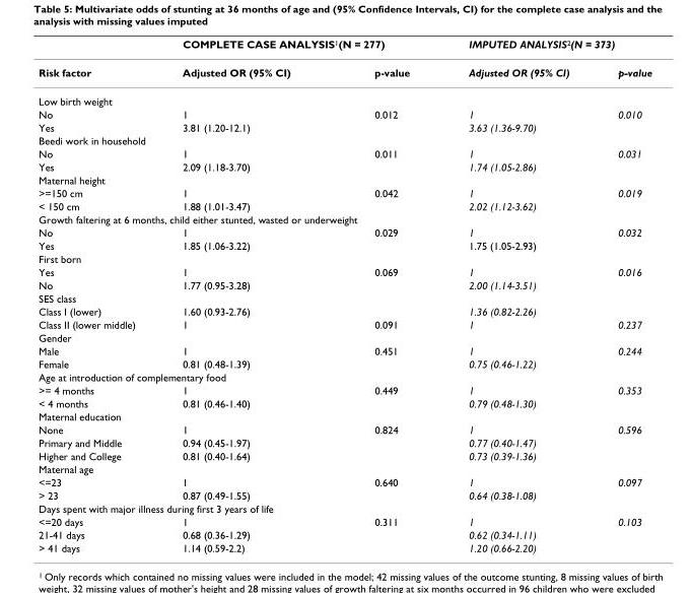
<table><thead><tr><td rowspan="2">Risk factor</td><td colspan="2">COMPLETE CASE ANALYSIS<sup>1</sup>(N = 277)</td><td colspan="2">IMPUTED ANALYSIS<sup>2</sup>(N = 373)</td></tr><tr><td>Adjusted OR (95% CI)</td><td>p-value</td><td>Adjusted OR (95% CI)</td><td>p-value</td></tr></thead><tbody><tr><td colspan="5">Low birth weight</td></tr><tr><td>No</td><td>1</td><td>0.012</td><td>1</td><td>0.010</td></tr><tr><td>Yes</td><td>3.81 (1.20-12.1)</td><td></td><td>3.63 (1.36-9.70)</td><td></td></tr><tr><td colspan="5">Beedi work in household</td></tr><tr><td>No</td><td>1</td><td>0.011</td><td>1</td><td>0.031</td></tr><tr><td>Yes</td><td>2.09 (1.18-3.70)</td><td></td><td>1.74 (1.05-2.86)</td><td></td></tr><tr><td colspan="5">Maternal height</td></tr><tr><td>&gt;=150 cm</td><td>1</td><td>0.042</td><td>1</td><td>0.019</td></tr><tr><td>&lt; 150 cm</td><td>1.88 (1.01-3.47)</td><td></td><td>2.02 (1.12-3.62)</td><td></td></tr><tr><td colspan="5">Growth faltering at 6 months, child either stunted, wasted or underweight</td></tr><tr><td>No</td><td>1</td><td>0.029</td><td>1</td><td>0.032</td></tr><tr><td>Yes</td><td>1.85 (1.06-3.22)</td><td></td><td>1.75 (1.05-2.93)</td><td></td></tr><tr><td colspan="5">First born</td></tr><tr><td>Yes</td><td>1</td><td>0.069</td><td>1</td><td>0.016</td></tr><tr><td>No</td><td>1.77 (0.95-3.28)</td><td></td><td>2.00 (1.14-3.51)</td><td></td></tr><tr><td colspan="5">SES class</td></tr><tr><td>Class I (lower)</td><td>1.60 (0.93-2.76)</td><td></td><td>1.36 (0.82-2.26)</td><td></td></tr><tr><td>Class II (lower middle)</td><td>1</td><td>0.091</td><td>1</td><td>0.237</td></tr><tr><td colspan="5">Gender</td></tr><tr><td>Male</td><td>1</td><td>0.451</td><td>1</td><td>0.244</td></tr><tr><td>Female</td><td>0.81 (0.48-1.39)</td><td></td><td>0.75 (0.46-1.22)</td><td></td></tr><tr><td colspan="5">Age at introduction of complementary food</td></tr><tr><td>&gt;= 4 months</td><td>1</td><td>0.449</td><td>1</td><td>0.353</td></tr><tr><td>&lt; 4 months</td><td>0.81 (0.46-1.40)</td><td></td><td>0.79 (0.48-1.30)</td><td></td></tr><tr><td colspan="5">Maternal education</td></tr><tr><td>None</td><td>1</td><td>0.824</td><td>1</td><td>0.596</td></tr><tr><td>Primary and Middle</td><td>0.94 (0.45-1.97)</td><td></td><td>0.77 (0.40-1.47)</td><td></td></tr><tr><td>Higher and College</td><td>0.81 (0.40-1.64)</td><td></td><td>0.73 (0.39-1.36)</td><td></td></tr><tr><td colspan="5">Maternal age</td></tr><tr><td>&lt;=23</td><td>1</td><td>0.640</td><td>1</td><td>0.097</td></tr><tr><td>&gt; 23</td><td>0.87 (0.49-1.55)</td><td></td><td>0.64 (0.38-1.08)</td><td></td></tr><tr><td colspan="5">Days spent with major illness during first 3 years of life</td></tr><tr><td>&lt;=20 days</td><td>1</td><td>0.311</td><td>1</td><td>0.103</td></tr><tr><td>21-41 days</td><td>0.68 (0.36-1.29)</td><td></td><td>0.62 (0.34-1.11)</td><td></td></tr><tr><td>&gt; 41 days</td><td>1.14 (0.59-2.2)</td><td></td><td>1.20 (0.66-2.20)</td><td></td></tr></tbody></table>